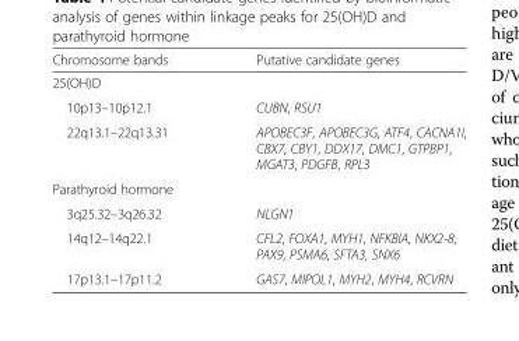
<table><thead><tr><td>Chromosome bands</td><td>Putative candidate genes</td></tr></thead><tbody><tr><td colspan="2">25(OH)D</td></tr><tr><td>10p13–10p12.1</td><td>CUBN, RSU1</td></tr><tr><td>22q13.1–22q13.31</td><td>APOBEC3F, APOBEC3G, ATF4, CACNA1I, CBX7, CBY1, DDX17, DMC1, GTPBP1, MGAT3, PDGFB, RPL3</td></tr><tr><td colspan="2">Parathyroid hormone</td></tr><tr><td>3q25.32–3q26.32</td><td>NLGN1</td></tr><tr><td>14q12–14q22.1</td><td>CFL2, FOXA1, MYH1, NFKBIA, NKX2-8, PAX9, PSMA6, SFTA3, SNX6</td></tr><tr><td>17p13.1–17p11.2</td><td>GAS7, MIPOL1, MYH2, MYH4, RCVRN</td></tr></tbody></table>